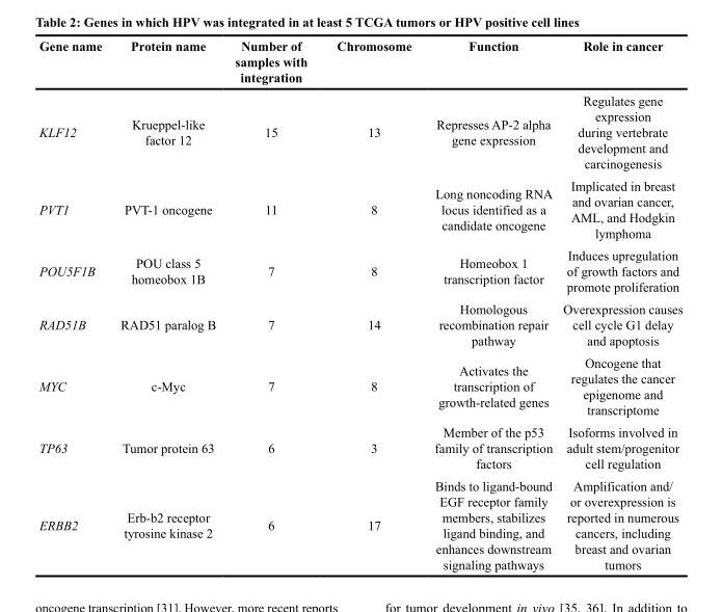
<table><thead><tr><td>Gene name</td><td>Protein name</td><td>Number of samples with integration</td><td>Chromosome</td><td>Function</td><td>Role in cancer</td></tr></thead><tbody><tr><td>KLF12</td><td>Krueppel-like factor 12</td><td>15</td><td>13</td><td>Represses AP-2 alpha gene expression</td><td>Regulates gene expression during vertebrate development and carcinogenesis</td></tr><tr><td>PVT1</td><td>PVT-1 oncogene</td><td>11</td><td>8</td><td>Long noncoding RNA locus identified as a candidate oncogene</td><td>Implicated in breast and ovarian cancer, AML, and Hodgkin lymphoma</td></tr><tr><td>POU5F1B</td><td>POU class 5 homeobox 1B</td><td>7</td><td>8</td><td>Homeobox 1 transcription factor</td><td>Induces upregulation of growth factors and promote proliferation</td></tr><tr><td>RAD51B</td><td>RAD51 paralog B</td><td>7</td><td>14</td><td>Homologous recombination repair pathway</td><td>Overexpression causes cell cycle G1 delay and apoptosis</td></tr><tr><td>MYC</td><td>c-Myc</td><td>7</td><td>8</td><td>Activates the transcription of growth-related genes</td><td>Oncogene that regulates the cancer epigenome and transcriptome</td></tr><tr><td>TP63</td><td>Tumor protein 63</td><td>6</td><td>3</td><td>Member of the p53 family of transcription factors</td><td>Isoforms involved in adult stem/progenitor cell regulation</td></tr><tr><td>ERBB2</td><td>Erb-b2 receptor tyrosine kinase 2</td><td>6</td><td>17</td><td>Binds to ligand-bound EGF receptor family members, stabilizes ligand binding, and enhances downstream signaling pathways</td><td>Amplification and/ or overexpression is reported in numerous cancers, including breast and ovarian tumors</td></tr></tbody></table>